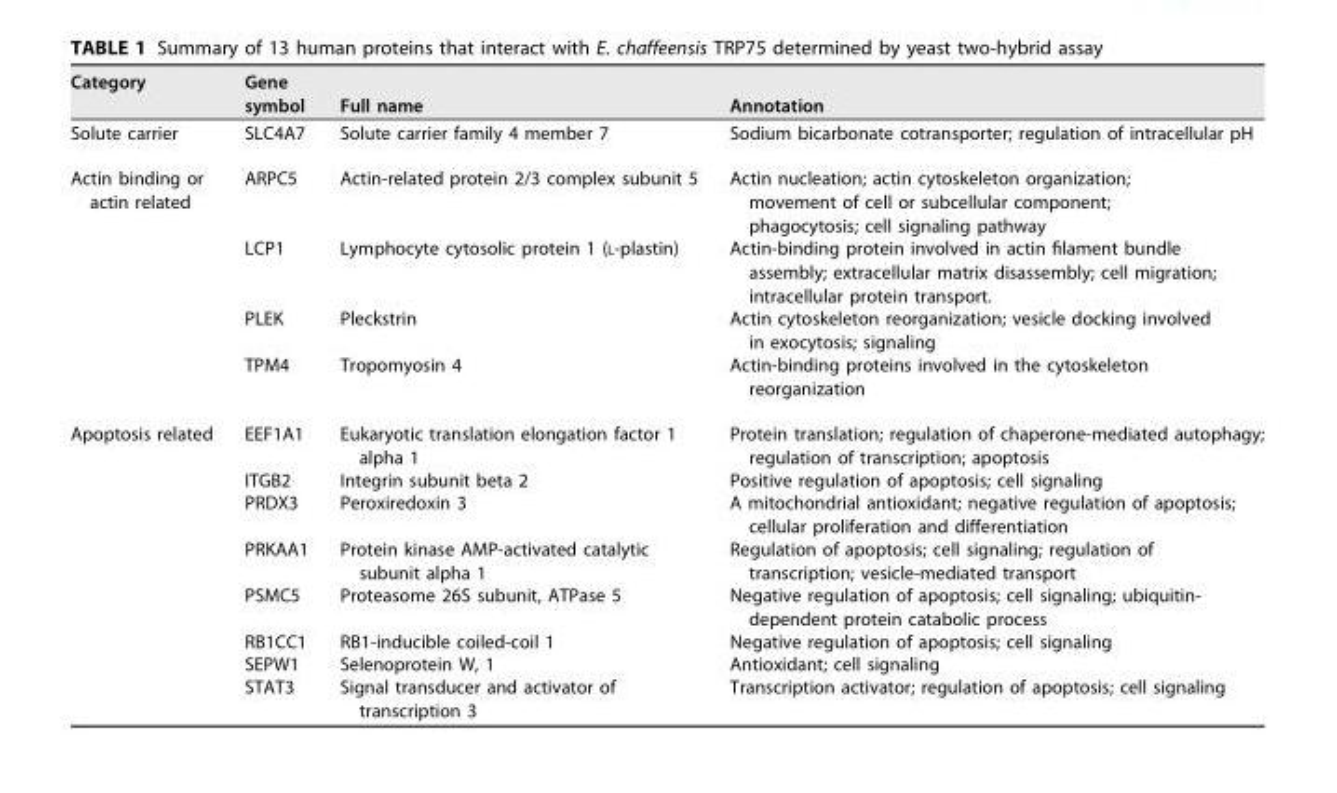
<table><thead><tr><td>Category</td><td>Gene symbol</td><td>Full name</td><td>Annotation</td></tr></thead><tbody><tr><td>Solute carrier</td><td>SLC4A7</td><td>Solute carrier family 4 member 7</td><td>Sodium bicarbonate cotransporter; regulation of intracellular pH</td></tr><tr><td rowspan="4">Actin binding or actin related</td><td>ARPC5</td><td>Actin-related protein 2/3 complex subunit 5</td><td>Actin nucleation; actin cytoskeleton organization; movement of cell or subcellular component; phagocytosis; cell signaling pathway</td></tr><tr><td>LCP1</td><td>Lymphocyte cytosolic protein 1 (L-plastin)</td><td>Actin-binding protein involved in actin filament bundle assembly; extracellular matrix disassembly; cell migration; intracellular protein transport.</td></tr><tr><td>PLEK</td><td>Pleckstrin</td><td>Actin cytoskeleton reorganization; vesicle docking involved in exocytosis; signaling</td></tr><tr><td>TPM4</td><td>Tropomyosin 4</td><td>Actin-binding proteins involved in the cytoskeleton reorganization</td></tr><tr><td rowspan="8">Apoptosis related</td><td>EEF1A1</td><td>Eukaryotic translation elongation factor 1 alpha 1</td><td>Protein translation; regulation of chaperone-mediated autophagy; regulation of transcription; apoptosis</td></tr><tr><td>ITGB2</td><td>Integrin subunit beta 2</td><td>Positive regulation of apoptosis; cell signaling</td></tr><tr><td>PRDX3</td><td>Peroxiredoxin 3</td><td>A mitochondrial antioxidant; negative regulation of apoptosis; cellular proliferation and differentiation</td></tr><tr><td>PRKAA1</td><td>Protein kinase AMP-activated catalytic subunit alpha 1</td><td>Regulation of apoptosis; cell signaling; regulation of transcription; vesicle-mediated transport</td></tr><tr><td>PSMC5</td><td>Proteasome 26S subunit, ATPase 5</td><td>Negative regulation of apoptosis; cell signaling; ubiquitin- dependent protein catabolic process</td></tr><tr><td>RB1CC1</td><td>RB1-inducible coiled-coil 1</td><td>Negative regulation of apoptosis; cell signaling</td></tr><tr><td>SEPW1</td><td>Selenoprotein W, 1</td><td>Antioxidant; cell signaling</td></tr><tr><td>STAT3</td><td>Signal transducer and activator of transcription 3</td><td>Transcription activator; regulation of apoptosis; cell signaling</td></tr></tbody></table>